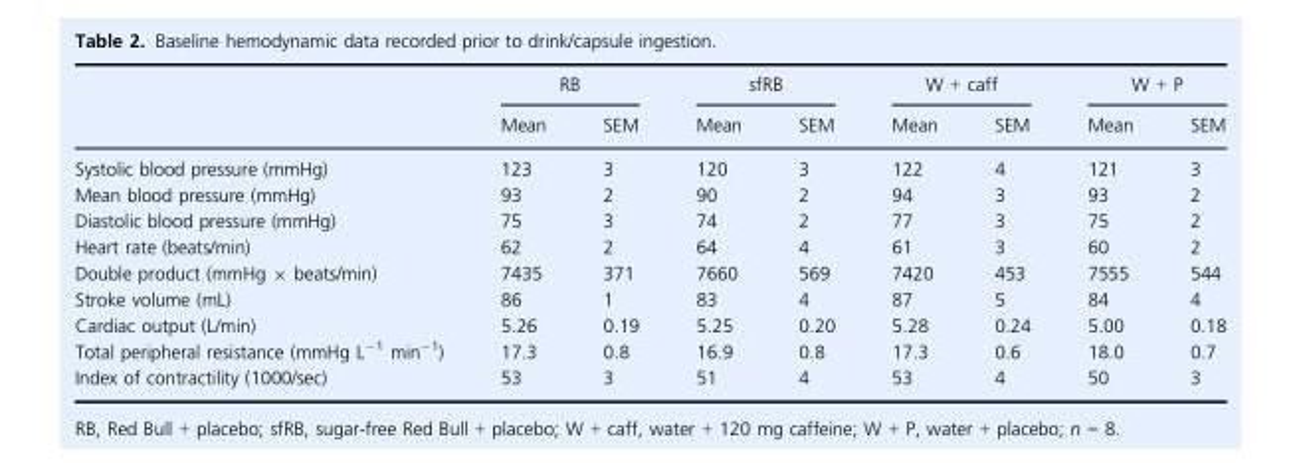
<table><thead><tr><td rowspan="2"></td><td colspan="2">RB</td><td colspan="2">sfRB</td><td colspan="2">W + caff</td><td colspan="2">W + P</td></tr><tr><td>Mean</td><td>SEM</td><td>Mean</td><td>SEM</td><td>Mean</td><td>SEM</td><td>Mean</td><td>SEM</td></tr></thead><tbody><tr><td>Systolic blood pressure (mmHg)</td><td>123</td><td>3</td><td>120</td><td>3</td><td>122</td><td>4</td><td>121</td><td>3</td></tr><tr><td>Mean blood pressure (mmHg)</td><td>93</td><td>2</td><td>90</td><td>2</td><td>94</td><td>3</td><td>93</td><td>2</td></tr><tr><td>Diastolic blood pressure (mmHg)</td><td>75</td><td>3</td><td>74</td><td>2</td><td>77</td><td>3</td><td>75</td><td>2</td></tr><tr><td>Heart rate (beats/min)</td><td>62</td><td>2</td><td>64</td><td>4</td><td>61</td><td>3</td><td>60</td><td>2</td></tr><tr><td>Double product (mmHg × beats/min)</td><td>7435</td><td>371</td><td>7660</td><td>569</td><td>7420</td><td>453</td><td>7555</td><td>544</td></tr><tr><td>Stroke volume (mL)</td><td>86</td><td>1</td><td>83</td><td>4</td><td>87</td><td>5</td><td>84</td><td>4</td></tr><tr><td>Cardiac output (L/min)</td><td>5.26</td><td>0.19</td><td>5.25</td><td>0.20</td><td>5.28</td><td>0.24</td><td>5.00</td><td>0.18</td></tr><tr><td>Total peripheral resistance (mmHg L<sup>−1</sup> min<sup>−1</sup>)</td><td>17.3</td><td>0.8</td><td>16.9</td><td>0.8</td><td>17.3</td><td>0.6</td><td>18.0</td><td>0.7</td></tr><tr><td>Index of contractility (1000/sec)</td><td>53</td><td>3</td><td>51</td><td>4</td><td>53</td><td>4</td><td>50</td><td>3</td></tr></tbody></table>